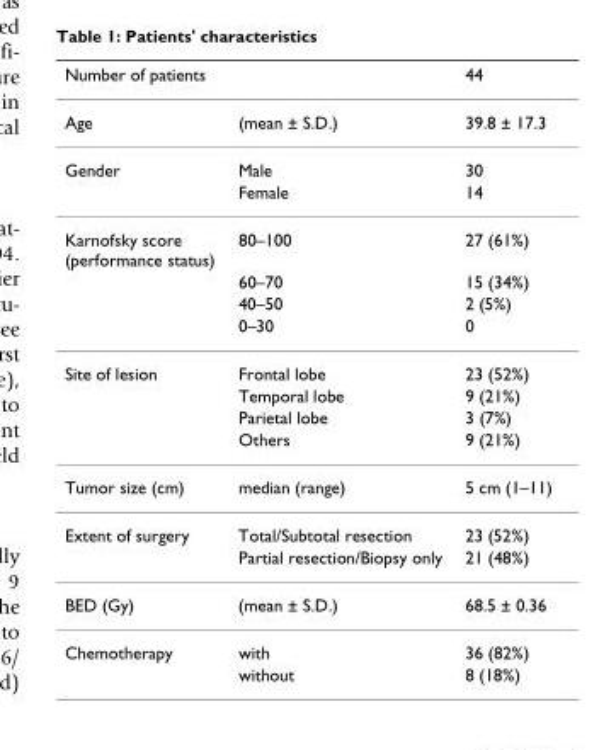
<table><thead><tr><td>Number of patients</td><td></td><td>44</td></tr></thead><tbody><tr><td>Age</td><td>(mean ± S.D.)</td><td>39.8 ± 17.3</td></tr><tr><td rowspan="2">Gender</td><td>Male</td><td>30</td></tr><tr><td>Female</td><td>14</td></tr><tr><td rowspan="4">Karnofsky score (performance status)</td><td>80–100</td><td>27 (61%)</td></tr><tr><td>60–70</td><td>15 (34%)</td></tr><tr><td>40–50</td><td>2 (5%)</td></tr><tr><td>0–30</td><td>0</td></tr><tr><td rowspan="4">Site of lesion</td><td>Frontal lobe</td><td>23 (52%)</td></tr><tr><td>Temporal lobe</td><td>9 (21%)</td></tr><tr><td>Parietal lobe</td><td>3 (7%)</td></tr><tr><td>Others</td><td>9 (21%)</td></tr><tr><td>Tumor size (cm)</td><td>median (range)</td><td>5 cm (1–11)</td></tr><tr><td rowspan="2">Extent of surgery</td><td>Total/Subtotal resection</td><td>23 (52%)</td></tr><tr><td>Partial resection/Biopsy only</td><td>21 (48%)</td></tr><tr><td>BED (Gy)</td><td>(mean ± S.D.)</td><td>68.5 ± 0.36</td></tr><tr><td rowspan="2">Chemotherapy</td><td>with</td><td>36 (82%)</td></tr><tr><td>without</td><td>8 (18%)</td></tr></tbody></table>